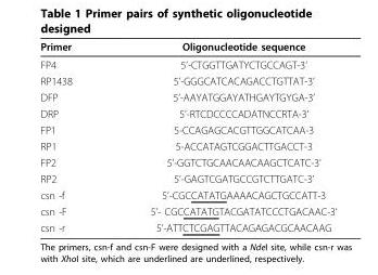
<table><thead><tr><td>Primer</td><td>Oligonucleotide sequence</td></tr></thead><tbody><tr><td>FP4</td><td>5’-CTGGTTGATYCTGCCAGT-3’</td></tr><tr><td>RP1438</td><td>5’-GGGCATCACAGACCTGTTAT-3’</td></tr><tr><td>DFP</td><td>5’-AAYATGGAYATHGAYTGYGA-3’</td></tr><tr><td>DRP</td><td>5’-RTCDCCCCADATNCCRTA-3’</td></tr><tr><td>FP1</td><td>5-CCAGAGCACGTTGGCATCAA-3</td></tr><tr><td>RP1</td><td>5-ACCATAGTCGGACTTGACCT-3</td></tr><tr><td>FP2</td><td>5’-GGTCTGCAACAACAAGCTCATC-3’</td></tr><tr><td>RP2</td><td>5’-GAGTCGATGCCGTCTTGATC-3’</td></tr><tr><td>csn -f</td><td>5’-CGCCATATGAAAACAGCTGCCATT-3</td></tr><tr><td>csn -F</td><td>5’- CGCCATATGTACGATATCCCTGACAAC-3’</td></tr><tr><td>csn -r</td><td>5’-ATTCTCGAGTTACAGAGACGCAACAAG</td></tr></tbody></table>